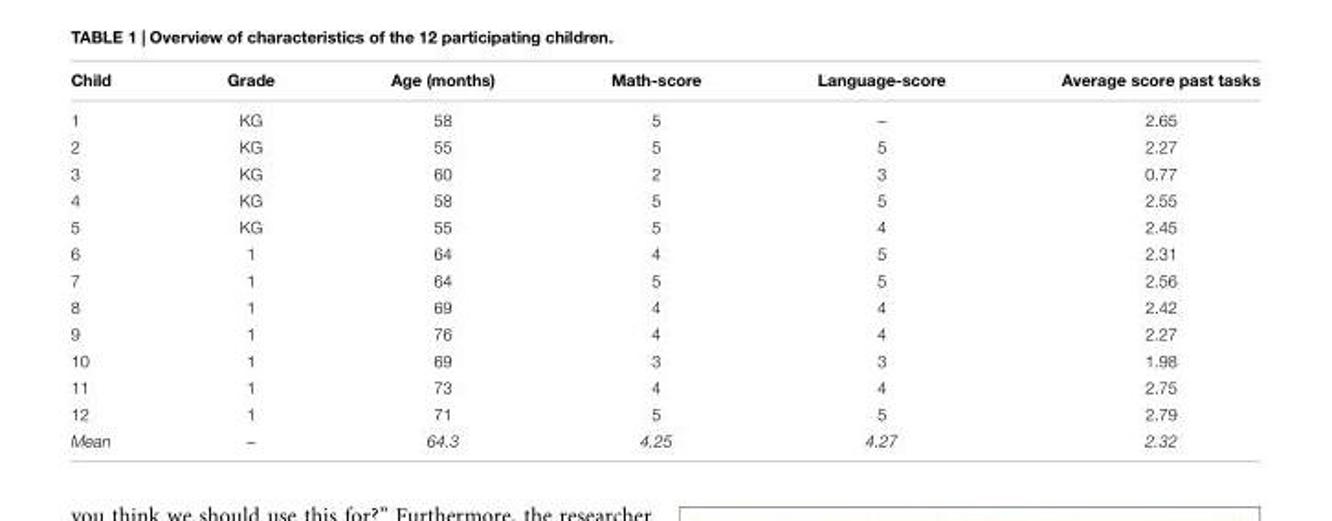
<table><thead><tr><td>Child</td><td>Grade</td><td>Age (months)</td><td>Math-score</td><td>Language-score</td><td>Average score past tasks</td></tr></thead><tbody><tr><td>1</td><td>KG</td><td>58</td><td>5</td><td>–</td><td>2.65</td></tr><tr><td>2</td><td>KG</td><td>55</td><td>5</td><td>5</td><td>2.27</td></tr><tr><td>3</td><td>KG</td><td>60</td><td>2</td><td>3</td><td>0.77</td></tr><tr><td>4</td><td>KG</td><td>58</td><td>5</td><td>5</td><td>2.55</td></tr><tr><td>5</td><td>KG</td><td>55</td><td>5</td><td>4</td><td>2.45</td></tr><tr><td>6</td><td>1</td><td>64</td><td>4</td><td>5</td><td>2.31</td></tr><tr><td>7</td><td>1</td><td>64</td><td>5</td><td>5</td><td>2.56</td></tr><tr><td>8</td><td>1</td><td>69</td><td>4</td><td>4</td><td>2.42</td></tr><tr><td>9</td><td>1</td><td>76</td><td>4</td><td>4</td><td>2.27</td></tr><tr><td>10</td><td>1</td><td>69</td><td>3</td><td>3</td><td>1.98</td></tr><tr><td>11</td><td>1</td><td>73</td><td>4</td><td>4</td><td>2.75</td></tr><tr><td>12</td><td>1</td><td>71</td><td>5</td><td>5</td><td>2.79</td></tr><tr><td>Mean</td><td>–</td><td>64.3</td><td>4.25</td><td>4.27</td><td>2.32</td></tr></tbody></table>